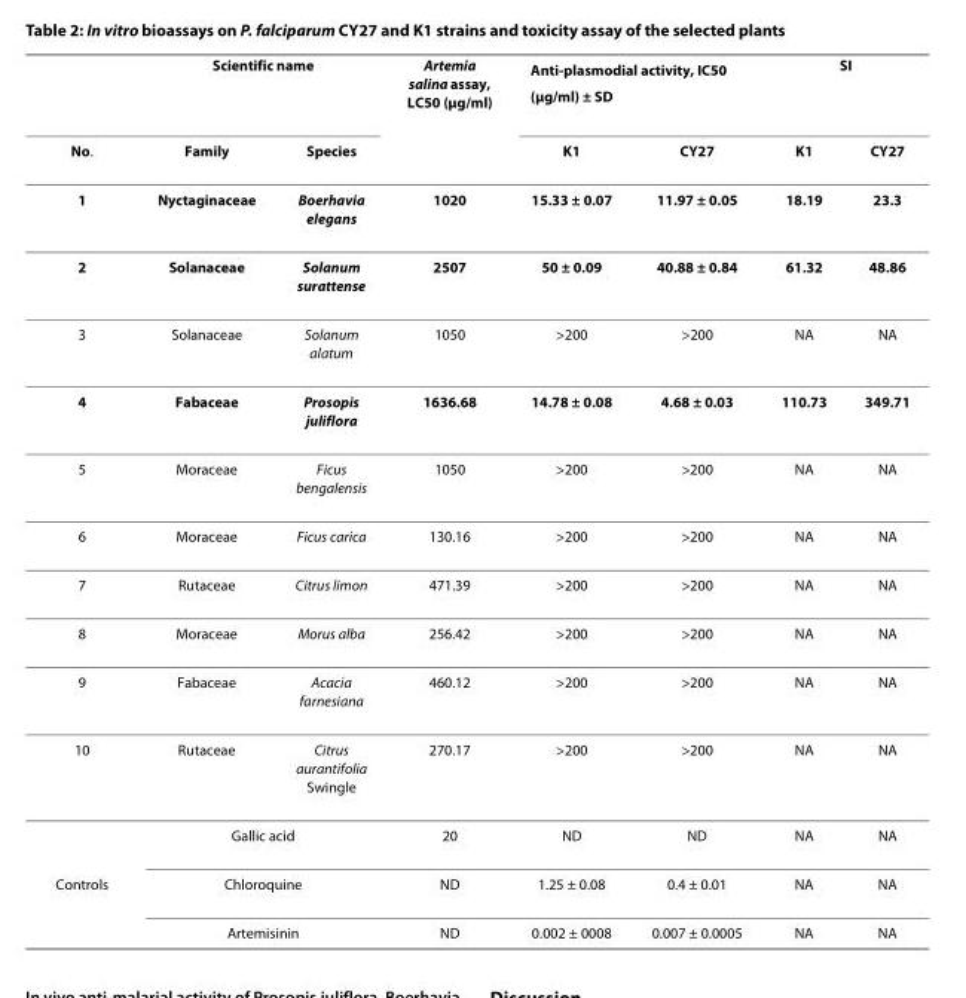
<table><thead><tr><td rowspan="2">No.</td><td colspan="2">Scientific name</td><td rowspan="2">Artemia salina assay, LC50 (μg/ml)</td><td colspan="2">Anti-plasmodial activity, IC50 (μg/ml) ± SD</td><td colspan="2">SI</td></tr><tr><td>Family</td><td>Species</td><td>K1</td><td>CY27</td><td>K1</td><td>CY27</td></tr></thead><tbody><tr><td>1</td><td>Nyctaginaceae</td><td>Boerhavia elegans</td><td>1020</td><td>15.33 ± 0.07</td><td>11.97 ± 0.05</td><td>18.19</td><td>23.3</td></tr><tr><td>2</td><td>Solanaceae</td><td>Solanum surattense</td><td>2507</td><td>50 ± 0.09</td><td>40.88 ± 0.84</td><td>61.32</td><td>48.86</td></tr><tr><td>3</td><td>Solanaceae</td><td>Solanum alatum</td><td>1050</td><td>&gt;200</td><td>&gt;200</td><td>NA</td><td>NA</td></tr><tr><td>4</td><td>Fabaceae</td><td>Prosopis juliflora</td><td>1636.68</td><td>14.78 ± 0.08</td><td>4.68 ± 0.03</td><td>110.73</td><td>349.71</td></tr><tr><td>5</td><td>Moraceae</td><td>Ficus bengalensis</td><td>1050</td><td>&gt;200</td><td>&gt;200</td><td>NA</td><td>NA</td></tr><tr><td>6</td><td>Moraceae</td><td>Ficus carica</td><td>130.16</td><td>&gt;200</td><td>&gt;200</td><td>NA</td><td>NA</td></tr><tr><td>7</td><td>Rutaceae</td><td>Citrus limon</td><td>471.39</td><td>&gt;200</td><td>&gt;200</td><td>NA</td><td>NA</td></tr><tr><td>8</td><td>Moraceae</td><td>Morus alba</td><td>256.42</td><td>&gt;200</td><td>&gt;200</td><td>NA</td><td>NA</td></tr><tr><td>9</td><td>Fabaceae</td><td>Acacia farnesiana</td><td>460.12</td><td>&gt;200</td><td>&gt;200</td><td>NA</td><td>NA</td></tr><tr><td rowspan="2">10</td><td>Rutaceae</td><td>Citrus aurantifolia Swingle</td><td>270.17</td><td>&gt;200</td><td>&gt;200</td><td>NA</td><td>NA</td></tr><tr><td colspan="2">Gallic acid</td><td>20</td><td>ND</td><td>ND</td><td>NA</td><td>NA</td></tr><tr><td rowspan="2">Controls</td><td colspan="2">Chloroquine</td><td>ND</td><td>1.25 ± 0.08</td><td>0.4 ± 0.01</td><td>NA</td><td>NA</td></tr><tr><td colspan="2">Artemisinin</td><td>ND</td><td>0.002 ± 0008</td><td>0.007 ± 0.0005</td><td>NA</td><td>NA</td></tr></tbody></table>